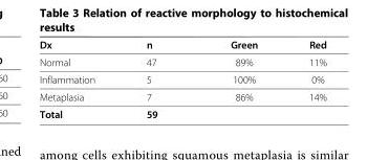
<table><thead><tr><td>Dx</td><td>n</td><td>Green</td><td>Red</td></tr></thead><tbody><tr><td>Normal</td><td>47</td><td>89%</td><td>11%</td></tr><tr><td>Inflammation</td><td>5</td><td>100%</td><td>0%</td></tr><tr><td>Metaplasia</td><td>7</td><td>86%</td><td>14%</td></tr><tr><td>Total</td><td>59</td><td></td><td></td></tr></tbody></table>